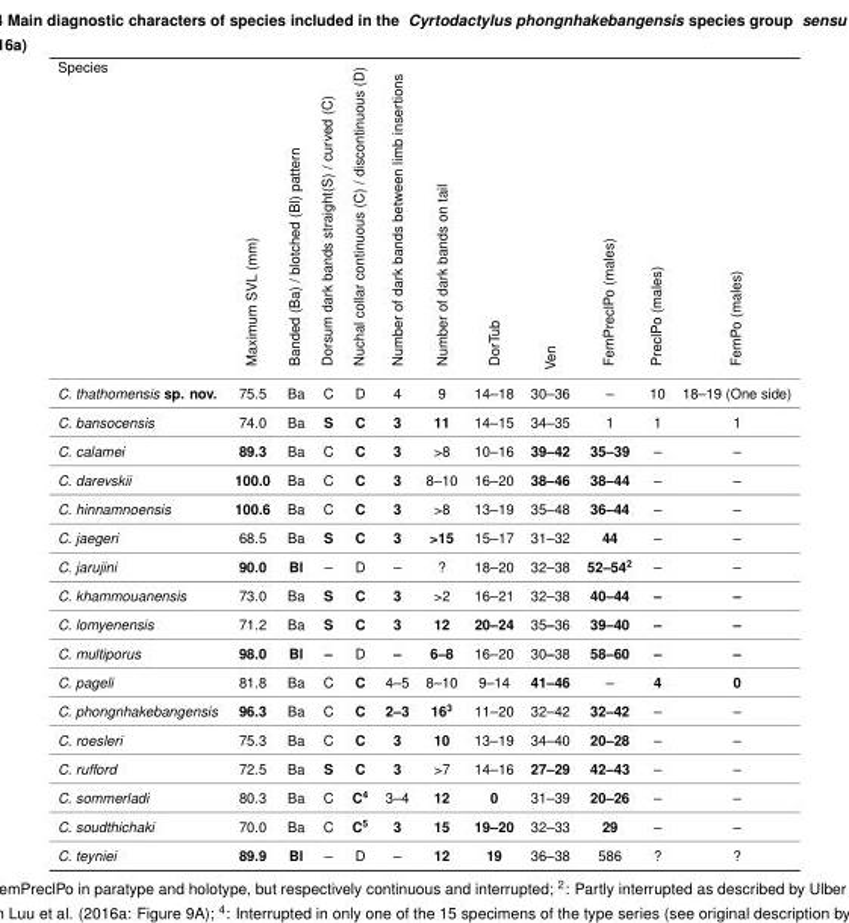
<table><thead><tr><td>Species</td><td>Maximum SVL (mm)</td><td>Banded (Ba) / blotched (Bl) pattern</td><td>Dorsum dark bands straight(S) / curved (C)</td><td>Nuchal collar continuous (C) / discontinuous (D)</td><td>Number of dark bands between limb insertions</td><td>Number of dark bands on tail</td><td>DorTub</td><td>Ven</td><td>FemPreclPo (males)</td><td>PreclPo (males)</td><td>FemPo (males)</td></tr></thead><tbody><tr><td>C. thathomensis sp. nov.</td><td>75.5</td><td>Ba</td><td>C</td><td>D</td><td>4</td><td>9</td><td>14–18</td><td>30–36</td><td>–</td><td>10</td><td>18–19 (One side)</td></tr><tr><td>C. bansocensis</td><td>74.0</td><td>Ba</td><td>S</td><td>C</td><td>3</td><td>11</td><td>14–15</td><td>34–35</td><td>1</td><td>1</td><td>1</td></tr><tr><td>C. calamei</td><td>89.3</td><td>Ba</td><td>C</td><td>C</td><td>3</td><td>&gt;8</td><td>10–16</td><td>39–42</td><td>35–39</td><td>–</td><td>–</td></tr><tr><td>C. darevskii</td><td>100.0</td><td>Ba</td><td>C</td><td>C</td><td>3</td><td>8–10</td><td>16–20</td><td>38–46</td><td>38–44</td><td>–</td><td>–</td></tr><tr><td>C. hinnamnoensis</td><td>100.6</td><td>Ba</td><td>C</td><td>C</td><td>3</td><td>&gt;8</td><td>13–19</td><td>35–48</td><td>36–44</td><td>–</td><td>–</td></tr><tr><td>C. jaegeri</td><td>68.5</td><td>Ba</td><td>S</td><td>C</td><td>3</td><td>&gt;15</td><td>15–17</td><td>31–32</td><td>44</td><td>–</td><td>–</td></tr><tr><td>C. jarujini</td><td>90.0</td><td>Bl</td><td>–</td><td>D</td><td>–</td><td>?</td><td>18–20</td><td>32–38</td><td>52–54<sup>2</sup></td><td>–</td><td>–</td></tr><tr><td>C. khammouanensis</td><td>73.0</td><td>Ba</td><td>S</td><td>C</td><td>3</td><td>&gt;2</td><td>16–21</td><td>32–38</td><td>40–44</td><td>–</td><td>–</td></tr><tr><td>C. lomyenensis</td><td>71.2</td><td>Ba</td><td>S</td><td>C</td><td>3</td><td>12</td><td>20–24</td><td>35–36</td><td>39–40</td><td>–</td><td>–</td></tr><tr><td>C. multiporus</td><td>98.0</td><td>Bl</td><td>–</td><td>D</td><td>–</td><td>6–8</td><td>16–20</td><td>30–38</td><td>58–60</td><td>–</td><td>–</td></tr><tr><td>C. pageli</td><td>81.8</td><td>Ba</td><td>C</td><td>C</td><td>4–5</td><td>8–10</td><td>9–14</td><td>41–46</td><td>–</td><td>4</td><td>0</td></tr><tr><td>C. phongnhakebangensis</td><td>96.3</td><td>Ba</td><td>C</td><td>C</td><td>2–3</td><td>16<sup>3</sup></td><td>11–20</td><td>32–42</td><td>32–42</td><td>–</td><td>–</td></tr><tr><td>C. roesleri</td><td>75.3</td><td>Ba</td><td>C</td><td>C</td><td>3</td><td>10</td><td>13–19</td><td>34–40</td><td>20–28</td><td>–</td><td>–</td></tr><tr><td>C. rufford</td><td>72.5</td><td>Ba</td><td>S</td><td>C</td><td>3</td><td>&gt;7</td><td>14–16</td><td>27–29</td><td>42–43</td><td>–</td><td>–</td></tr><tr><td>C. sommerladi</td><td>80.3</td><td>Ba</td><td>C</td><td>C<sup>4</sup></td><td>3–4</td><td>12</td><td>0</td><td>31–39</td><td>20–26</td><td>–</td><td>–</td></tr><tr><td>C. soudthichaki</td><td>70.0</td><td>Ba</td><td>C</td><td>C<sup>5</sup></td><td>3</td><td>15</td><td>19–20</td><td>32–33</td><td>29</td><td>–</td><td>–</td></tr><tr><td>C. teyniei</td><td>89.9</td><td>Bl</td><td>–</td><td>D</td><td>–</td><td>12</td><td>19</td><td>36–38</td><td>586</td><td>?</td><td>?</td></tr></tbody></table>